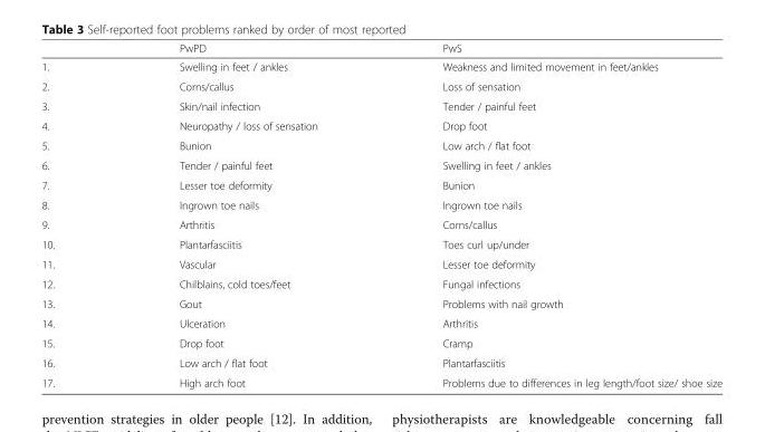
<table><thead><tr><td></td><td>PwPD</td><td>PwS</td></tr></thead><tbody><tr><td>1.</td><td>Swelling in feet / ankles</td><td>Weakness and limited movement in feet/ankles</td></tr><tr><td>2.</td><td>Corns/callus</td><td>Loss of sensation</td></tr><tr><td>3.</td><td>Skin/nail infection</td><td>Tender / painful feet</td></tr><tr><td>4.</td><td>Neuropathy / loss of sensation</td><td>Drop foot</td></tr><tr><td>5.</td><td>Bunion</td><td>Low arch / flat foot</td></tr><tr><td>6.</td><td>Tender / painful feet</td><td>Swelling in feet / ankles</td></tr><tr><td>7.</td><td>Lesser toe deformity</td><td>Bunion</td></tr><tr><td>8.</td><td>Ingrown toe nails</td><td>Ingrown toe nails</td></tr><tr><td>9.</td><td>Arthritis</td><td>Corns/callus</td></tr><tr><td>10.</td><td>Plantarfasciitis</td><td>Toes curl up/under</td></tr><tr><td>11.</td><td>Vascular</td><td>Lesser toe deformity</td></tr><tr><td>12.</td><td>Chilblains, cold toes/feet</td><td>Fungal infections</td></tr><tr><td>13.</td><td>Gout</td><td>Problems with nail growth</td></tr><tr><td>14.</td><td>Ulceration</td><td>Arthritis</td></tr><tr><td>15.</td><td>Drop foot</td><td>Cramp</td></tr><tr><td>16.</td><td>Low arch / flat foot</td><td>Plantarfasciitis</td></tr><tr><td>17.</td><td>High arch foot</td><td>Problems due to differences in leg length/foot size/ shoe size</td></tr></tbody></table>